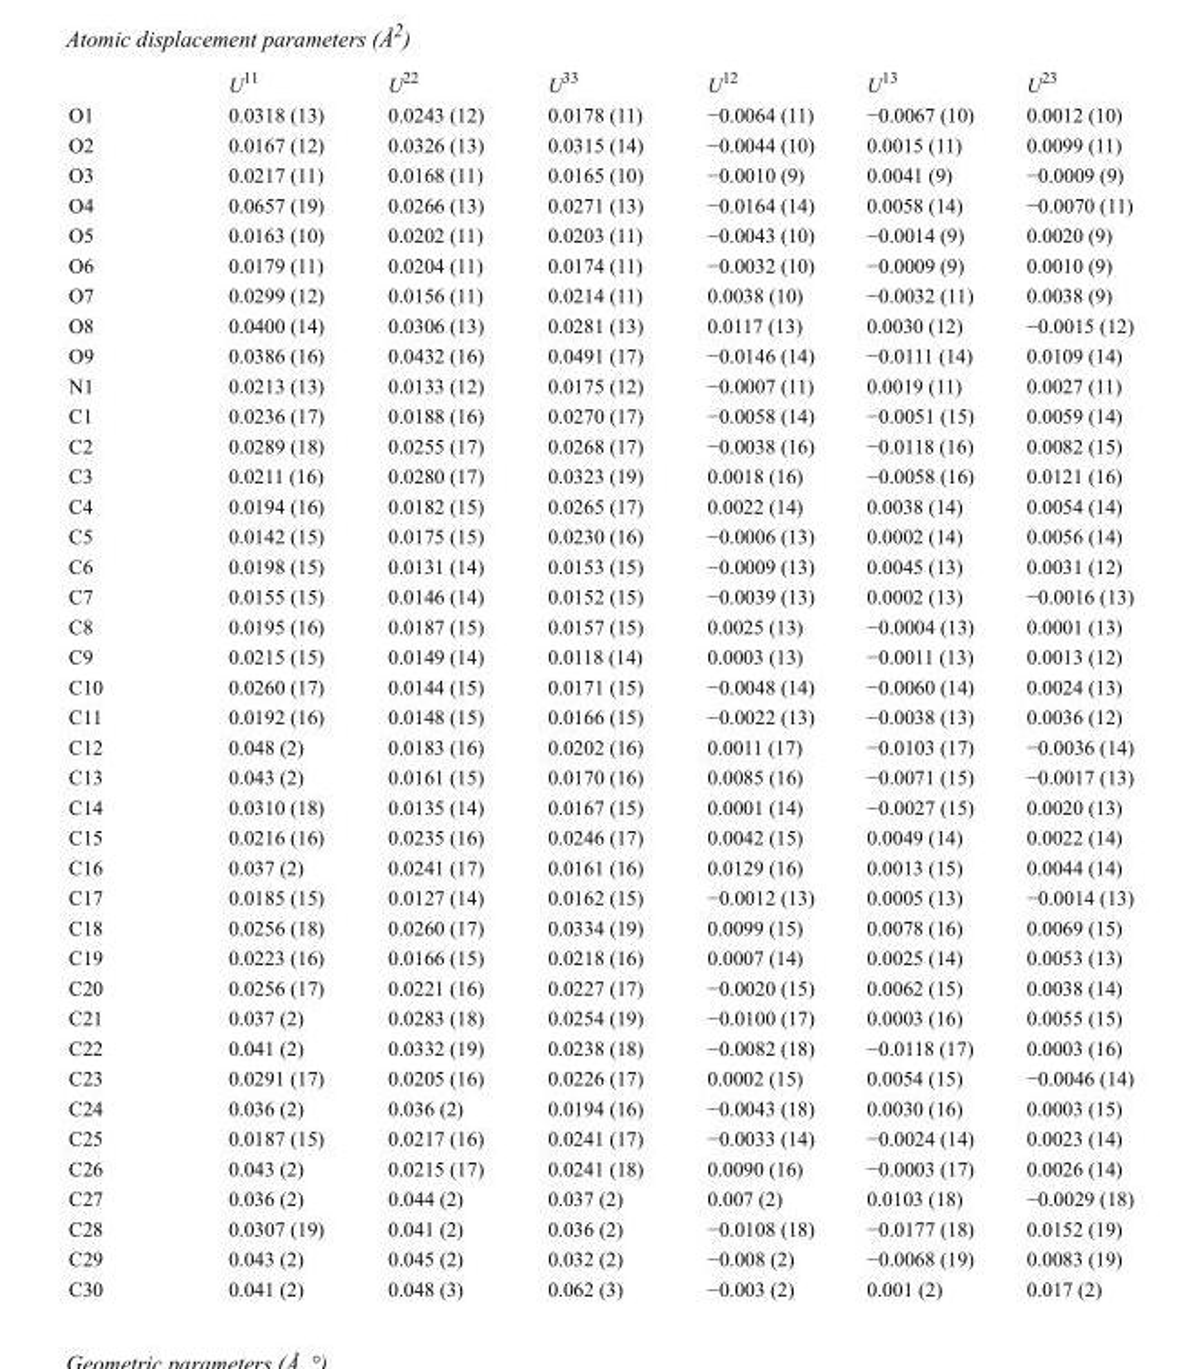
<table><thead><tr><td></td><td>U<sup>11</sup></td><td>U<sup>22</sup></td><td>U<sup>33</sup></td><td>U<sup>12</sup></td><td>U<sup>13</sup></td><td>U<sup>23</sup></td></tr></thead><tbody><tr><td>O1</td><td>0.0318 (13)</td><td>0.0243 (12)</td><td>0.0178 (11)</td><td>−0.0064 (11)</td><td>−0.0067 (10)</td><td>0.0012 (10)</td></tr><tr><td>O2</td><td>0.0167 (12)</td><td>0.0326 (13)</td><td>0.0315 (14)</td><td>−0.0044 (10)</td><td>0.0015 (11)</td><td>0.0099 (11)</td></tr><tr><td>O3</td><td>0.0217 (11)</td><td>0.0168 (11)</td><td>0.0165 (10)</td><td>−0.0010 (9)</td><td>0.0041 (9)</td><td>−0.0009 (9)</td></tr><tr><td>O4</td><td>0.0657 (19)</td><td>0.0266 (13)</td><td>0.0271 (13)</td><td>−0.0164 (14)</td><td>0.0058 (14)</td><td>−0.0070 (11)</td></tr><tr><td>O5</td><td>0.0163 (10)</td><td>0.0202 (11)</td><td>0.0203 (11)</td><td>−0.0043 (10)</td><td>−0.0014 (9)</td><td>0.0020 (9)</td></tr><tr><td>O6</td><td>0.0179 (11)</td><td>0.0204 (11)</td><td>0.0174 (11)</td><td>−0.0032 (10)</td><td>−0.0009 (9)</td><td>0.0010 (9)</td></tr><tr><td>O7</td><td>0.0299 (12)</td><td>0.0156 (11)</td><td>0.0214 (11)</td><td>0.0038 (10)</td><td>−0.0032 (11)</td><td>0.0038 (9)</td></tr><tr><td>O8</td><td>0.0400 (14)</td><td>0.0306 (13)</td><td>0.0281 (13)</td><td>0.0117 (13)</td><td>0.0030 (12)</td><td>−0.0015 (12)</td></tr><tr><td>O9</td><td>0.0386 (16)</td><td>0.0432 (16)</td><td>0.0491 (17)</td><td>−0.0146 (14)</td><td>−0.0111 (14)</td><td>0.0109 (14)</td></tr><tr><td>N1</td><td>0.0213 (13)</td><td>0.0133 (12)</td><td>0.0175 (12)</td><td>−0.0007 (11)</td><td>0.0019 (11)</td><td>0.0027 (11)</td></tr><tr><td>C1</td><td>0.0236 (17)</td><td>0.0188 (16)</td><td>0.0270 (17)</td><td>−0.0058 (14)</td><td>−0.0051 (15)</td><td>0.0059 (14)</td></tr><tr><td>C2</td><td>0.0289 (18)</td><td>0.0255 (17)</td><td>0.0268 (17)</td><td>−0.0038 (16)</td><td>−0.0118 (16)</td><td>0.0082 (15)</td></tr><tr><td>C3</td><td>0.0211 (16)</td><td>0.0280 (17)</td><td>0.0323 (19)</td><td>0.0018 (16)</td><td>−0.0058 (16)</td><td>0.0121 (16)</td></tr><tr><td>C4</td><td>0.0194 (16)</td><td>0.0182 (15)</td><td>0.0265 (17)</td><td>0.0022 (14)</td><td>0.0038 (14)</td><td>0.0054 (14)</td></tr><tr><td>C5</td><td>0.0142 (15)</td><td>0.0175 (15)</td><td>0.0230 (16)</td><td>−0.0006 (13)</td><td>0.0002 (14)</td><td>0.0056 (14)</td></tr><tr><td>C6</td><td>0.0198 (15)</td><td>0.0131 (14)</td><td>0.0153 (15)</td><td>−0.0009 (13)</td><td>0.0045 (13)</td><td>0.0031 (12)</td></tr><tr><td>C7</td><td>0.0155 (15)</td><td>0.0146 (14)</td><td>0.0152 (15)</td><td>−0.0039 (13)</td><td>0.0002 (13)</td><td>−0.0016 (13)</td></tr><tr><td>C8</td><td>0.0195 (16)</td><td>0.0187 (15)</td><td>0.0157 (15)</td><td>0.0025 (13)</td><td>−0.0004 (13)</td><td>0.0001 (13)</td></tr><tr><td>C9</td><td>0.0215 (15)</td><td>0.0149 (14)</td><td>0.0118 (14)</td><td>0.0003 (13)</td><td>−0.0011 (13)</td><td>0.0013 (12)</td></tr><tr><td>C10</td><td>0.0260 (17)</td><td>0.0144 (15)</td><td>0.0171 (15)</td><td>−0.0048 (14)</td><td>−0.0060 (14)</td><td>0.0024 (13)</td></tr><tr><td>C11</td><td>0.0192 (16)</td><td>0.0148 (15)</td><td>0.0166 (15)</td><td>−0.0022 (13)</td><td>−0.0038 (13)</td><td>0.0036 (12)</td></tr><tr><td>C12</td><td>0.048 (2)</td><td>0.0183 (16)</td><td>0.0202 (16)</td><td>0.0011 (17)</td><td>−0.0103 (17)</td><td>−0.0036 (14)</td></tr><tr><td>C13</td><td>0.043 (2)</td><td>0.0161 (15)</td><td>0.0170 (16)</td><td>0.0085 (16)</td><td>−0.0071 (15)</td><td>−0.0017 (13)</td></tr><tr><td>C14</td><td>0.0310 (18)</td><td>0.0135 (14)</td><td>0.0167 (15)</td><td>0.0001 (14)</td><td>−0.0027 (15)</td><td>0.0020 (13)</td></tr><tr><td>C15</td><td>0.0216 (16)</td><td>0.0235 (16)</td><td>0.0246 (17)</td><td>0.0042 (15)</td><td>0.0049 (14)</td><td>0.0022 (14)</td></tr><tr><td>C16</td><td>0.037 (2)</td><td>0.0241 (17)</td><td>0.0161 (16)</td><td>0.0129 (16)</td><td>0.0013 (15)</td><td>0.0044 (14)</td></tr><tr><td>C17</td><td>0.0185 (15)</td><td>0.0127 (14)</td><td>0.0162 (15)</td><td>−0.0012 (13)</td><td>0.0005 (13)</td><td>−0.0014 (13)</td></tr><tr><td>C18</td><td>0.0256 (18)</td><td>0.0260 (17)</td><td>0.0334 (19)</td><td>0.0099 (15)</td><td>0.0078 (16)</td><td>0.0069 (15)</td></tr><tr><td>C19</td><td>0.0223 (16)</td><td>0.0166 (15)</td><td>0.0218 (16)</td><td>0.0007 (14)</td><td>0.0025 (14)</td><td>0.0053 (13)</td></tr><tr><td>C20</td><td>0.0256 (17)</td><td>0.0221 (16)</td><td>0.0227 (17)</td><td>−0.0020 (15)</td><td>0.0062 (15)</td><td>0.0038 (14)</td></tr><tr><td>C21</td><td>0.037 (2)</td><td>0.0283 (18)</td><td>0.0254 (19)</td><td>−0.0100 (17)</td><td>0.0003 (16)</td><td>0.0055 (15)</td></tr><tr><td>C22</td><td>0.041 (2)</td><td>0.0332 (19)</td><td>0.0238 (18)</td><td>−0.0082 (18)</td><td>−0.0118 (17)</td><td>0.0003 (16)</td></tr><tr><td>C23</td><td>0.0291 (17)</td><td>0.0205 (16)</td><td>0.0226 (17)</td><td>0.0002 (15)</td><td>0.0054 (15)</td><td>−0.0046 (14)</td></tr><tr><td>C24</td><td>0.036 (2)</td><td>0.036 (2)</td><td>0.0194 (16)</td><td>−0.0043 (18)</td><td>0.0030 (16)</td><td>0.0003 (15)</td></tr><tr><td>C25</td><td>0.0187 (15)</td><td>0.0217 (16)</td><td>0.0241 (17)</td><td>−0.0033 (14)</td><td>−0.0024 (14)</td><td>0.0023 (14)</td></tr><tr><td>C26</td><td>0.043 (2)</td><td>0.0215 (17)</td><td>0.0241 (18)</td><td>0.0090 (16)</td><td>−0.0003 (17)</td><td>0.0026 (14)</td></tr><tr><td>C27</td><td>0.036 (2)</td><td>0.044 (2)</td><td>0.037 (2)</td><td>0.007 (2)</td><td>0.0103 (18)</td><td>−0.0029 (18)</td></tr><tr><td>C28</td><td>0.0307 (19)</td><td>0.041 (2)</td><td>0.036 (2)</td><td>−0.0108 (18)</td><td>−0.0177 (18)</td><td>0.0152 (19)</td></tr><tr><td>C29</td><td>0.043 (2)</td><td>0.045 (2)</td><td>0.032 (2)</td><td>−0.008 (2)</td><td>−0.0068 (19)</td><td>0.0083 (19)</td></tr><tr><td>C30</td><td>0.041 (2)</td><td>0.048 (3)</td><td>0.062 (3)</td><td>−0.003 (2)</td><td>0.001 (2)</td><td>0.017 (2)</td></tr></tbody></table>